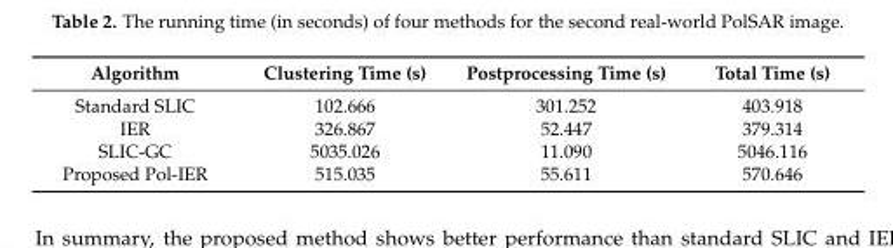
<table><thead><tr><td>Algorithm</td><td>Clustering Time (s)</td><td>Postprocessing Time (s)</td><td>Total Time (s)</td></tr></thead><tbody><tr><td>Standard SLIC</td><td>102.666</td><td>301.252</td><td>403.918</td></tr><tr><td>IER</td><td>326.867</td><td>52.447</td><td>379.314</td></tr><tr><td>SLIC-GC</td><td>5035.026</td><td>11.090</td><td>5046.116</td></tr><tr><td>Proposed Pol-IER</td><td>515.035</td><td>55.611</td><td>570.646</td></tr></tbody></table>